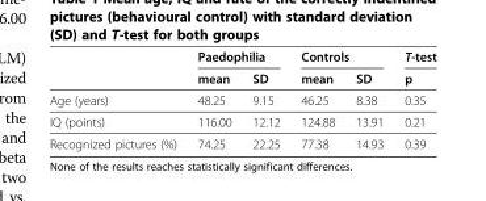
<table><thead><tr><td rowspan="2"></td><td colspan="2">Paedophilia</td><td colspan="2">Controls</td><td rowspan="2">T-test p</td></tr><tr><td>mean</td><td>SD</td><td>mean</td><td>SD</td></tr></thead><tbody><tr><td>Age (years)</td><td>48.25</td><td>9.15</td><td>46.25</td><td>8.38</td><td>0.35</td></tr><tr><td>IQ (points)</td><td>116.00</td><td>12.12</td><td>124.88</td><td>13.91</td><td>0.21</td></tr><tr><td>Recognized pictures (%)</td><td>74.25</td><td>22.25</td><td>77.38</td><td>14.93</td><td>0.39</td></tr></tbody></table>